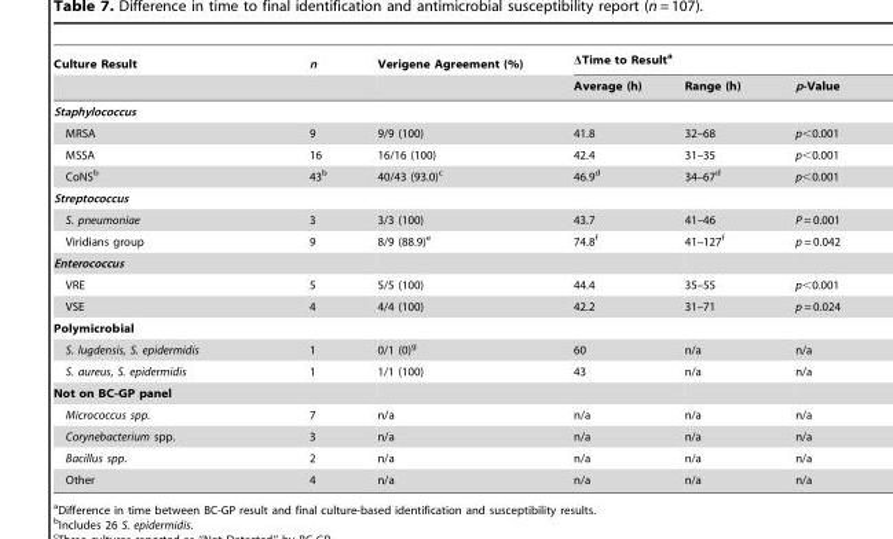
<table><thead><tr><td rowspan="2">Culture Result</td><td rowspan="2">n</td><td rowspan="2">Verigene Agreement (%)</td><td colspan="3">ΔTime to Result<sup>a</sup></td></tr><tr><td>Average (h)</td><td>Range (h)</td><td>p-Value</td></tr></thead><tbody><tr><td colspan="6">Staphylococcus</td></tr><tr><td>MRSA</td><td>9</td><td>9/9 (100)</td><td>41.8</td><td>32–68</td><td>p&lt;0.001</td></tr><tr><td>MSSA</td><td>16</td><td>16/16 (100)</td><td>42.4</td><td>31–35</td><td>p&lt;0.001</td></tr><tr><td>CoNS<sup>b</sup></td><td>43<sup>b</sup></td><td>40/43 (93.0)<sup>c</sup></td><td>46.9<sup>d</sup></td><td>34–67<sup>d</sup></td><td>p&lt;0.001</td></tr><tr><td colspan="6">Streptococcus</td></tr><tr><td>S. pneumoniae</td><td>3</td><td>3/3 (100)</td><td>43.7</td><td>41–46</td><td>P = 0.001</td></tr><tr><td>Viridians group</td><td>9</td><td>8/9 (88.9)<sup>e</sup></td><td>74.8<sup>f</sup></td><td>41–127<sup>f</sup></td><td>p = 0.042</td></tr><tr><td colspan="6">Enterococcus</td></tr><tr><td>VRE</td><td>5</td><td>5/5 (100)</td><td>44.4</td><td>35–55</td><td>p&lt;0.001</td></tr><tr><td>VSE</td><td>4</td><td>4/4 (100)</td><td>42.2</td><td>31–71</td><td>p = 0.024</td></tr><tr><td colspan="6">Polymicrobial</td></tr><tr><td>S. lugdensis, S. epidermidis</td><td>1</td><td>0/1 (0)<sup>g</sup></td><td>60</td><td>n/a</td><td>n/a</td></tr><tr><td>S. aureus, S. epidermidis</td><td>1</td><td>1/1 (100)</td><td>43</td><td>n/a</td><td>n/a</td></tr><tr><td colspan="6">Not on BC-GP panel</td></tr><tr><td>Micrococcus spp.</td><td>7</td><td>n/a</td><td>n/a</td><td>n/a</td><td>n/a</td></tr><tr><td>Corynebacterium spp.</td><td>3</td><td>n/a</td><td>n/a</td><td>n/a</td><td>n/a</td></tr><tr><td>Bacillus spp.</td><td>2</td><td>n/a</td><td>n/a</td><td>n/a</td><td>n/a</td></tr><tr><td>Other</td><td>4</td><td>n/a</td><td>n/a</td><td>n/a</td><td>n/a</td></tr></tbody></table>